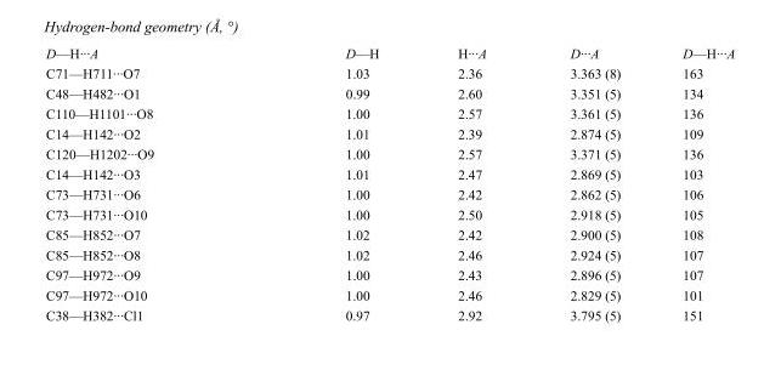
<table><tbody><tr><td>D—H···A</td><td>D—H</td><td>H···A</td><td>D···A</td><td>D—H···A</td></tr><tr><td>C71—H711···O7</td><td>1.03</td><td>2.36</td><td>3.363 (8)</td><td>163</td></tr><tr><td>C48—H482···O1</td><td>0.99</td><td>2.60</td><td>3.351 (5)</td><td>134</td></tr><tr><td>C110—H1101···O8</td><td>1.00</td><td>2.57</td><td>3.361 (5)</td><td>136</td></tr><tr><td>C14—H142···O2</td><td>1.01</td><td>2.39</td><td>2.874 (5)</td><td>109</td></tr><tr><td>C120—H1202···O9</td><td>1.00</td><td>2.57</td><td>3.371 (5)</td><td>136</td></tr><tr><td>C14—H142···O3</td><td>1.01</td><td>2.47</td><td>2.869 (5)</td><td>103</td></tr><tr><td>C73—H731···O6</td><td>1.00</td><td>2.42</td><td>2.862 (5)</td><td>106</td></tr><tr><td>C73—H731···O10</td><td>1.00</td><td>2.50</td><td>2.918 (5)</td><td>105</td></tr><tr><td>C85—H852···O7</td><td>1.02</td><td>2.42</td><td>2.900 (5)</td><td>108</td></tr><tr><td>C85—H852···O8</td><td>1.02</td><td>2.46</td><td>2.924 (5)</td><td>107</td></tr><tr><td>C97—H972···O9</td><td>1.00</td><td>2.43</td><td>2.896 (5)</td><td>107</td></tr><tr><td>C97—H972···O10</td><td>1.00</td><td>2.46</td><td>2.829 (5)</td><td>101</td></tr><tr><td>C38—H382···Cl1</td><td>0.97</td><td>2.92</td><td>3.795 (5)</td><td>151</td></tr></tbody></table>